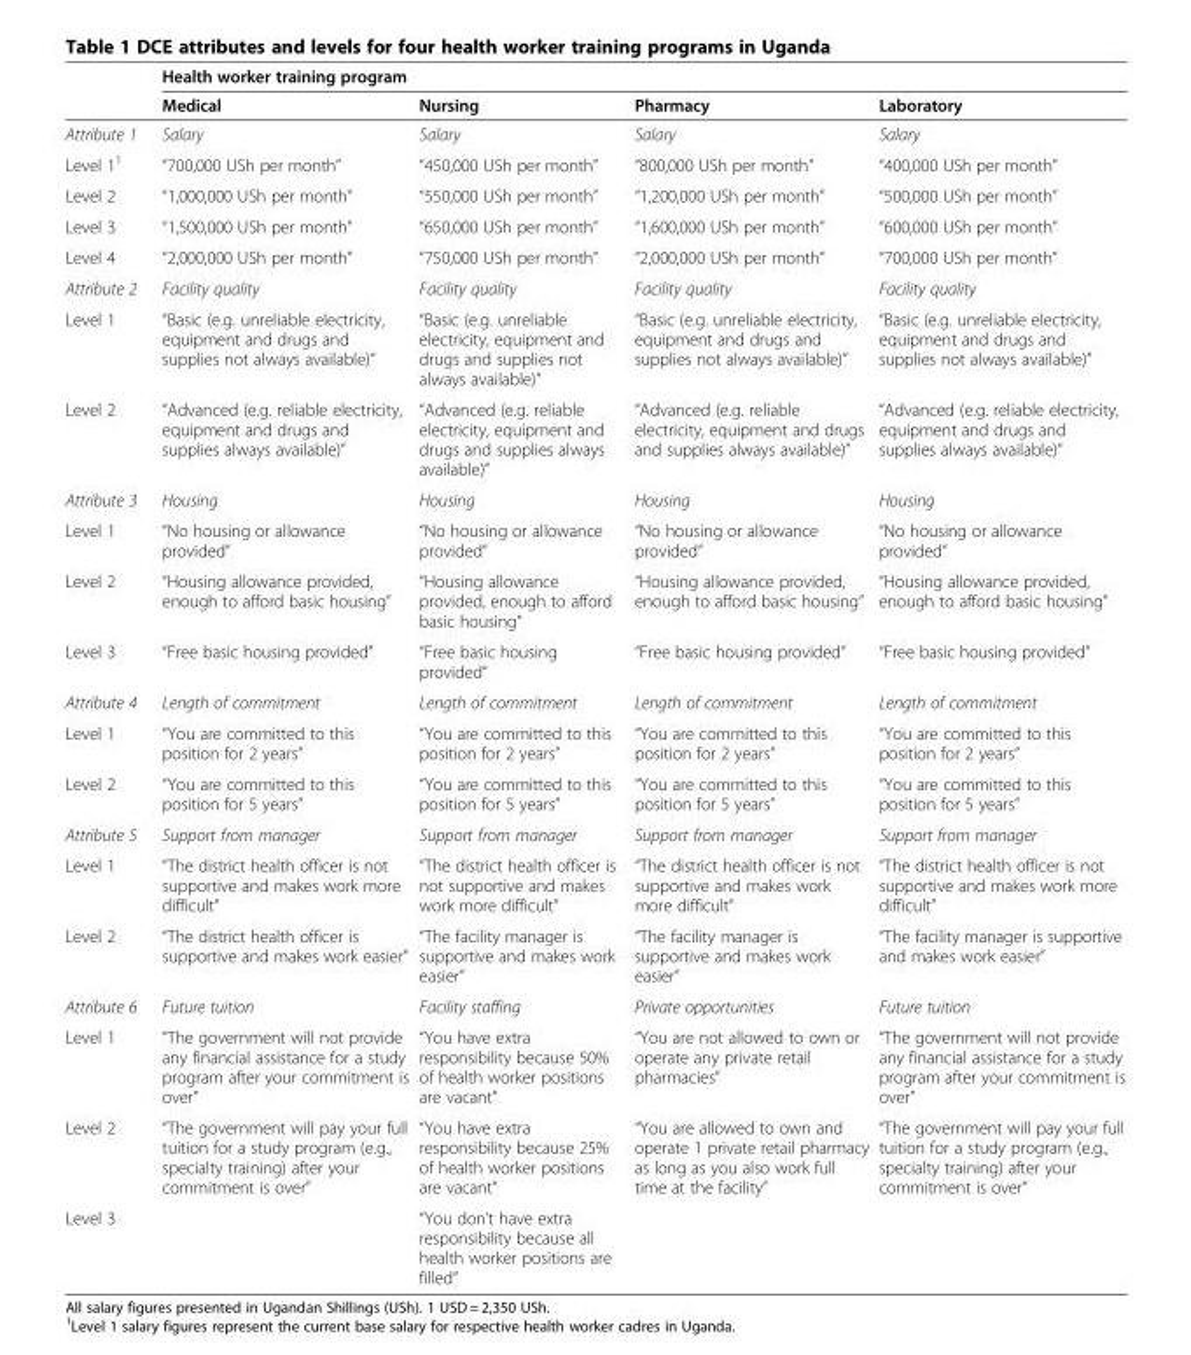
<table><thead><tr><td rowspan="2"></td><td colspan="4">Health worker training program</td></tr><tr><td>Medical</td><td>Nursing</td><td>Pharmacy</td><td>Laboratory</td></tr></thead><tbody><tr><td>Attribute 1</td><td>Salary</td><td>Salary</td><td>Salary</td><td>Salary</td></tr><tr><td>Level 1<sup>1</sup></td><td>“700,000 USh per month”</td><td>“450,000 USh per month”</td><td>“800,000 USh per month”</td><td>“400,000 USh per month”</td></tr><tr><td>Level 2</td><td>“1,000,000 USh per month”</td><td>“550,000 USh per month”</td><td>“1,200,000 USh per month”</td><td>“500,000 USh per month”</td></tr><tr><td>Level 3</td><td>“1,500,000 USh per month”</td><td>“650,000 USh per month”</td><td>“1,600,000 USh per month”</td><td>“600,000 USh per month”</td></tr><tr><td>Level 4</td><td>“2,000,000 USh per month”</td><td>“750,000 USh per month”</td><td>“2,000,000 USh per month”</td><td>“700,000 USh per month”</td></tr><tr><td>Attribute 2</td><td>Facility quality</td><td>Facility quality</td><td>Facility quality</td><td>Facility quality</td></tr><tr><td>Level 1</td><td>“Basic (e.g. unreliable electricity, equipment and drugs and supplies not always available)”</td><td>“Basic (e.g. unreliable electricity, equipment and drugs and supplies not always available)”</td><td>“Basic (e.g. unreliable electricity, equipment and drugs and supplies not always available)”</td><td>“Basic (e.g. unreliable electricity, equipment and drugs and supplies not always available)”</td></tr><tr><td>Level 2</td><td>“Advanced (e.g. reliable electricity, equipment and drugs and supplies always available)”</td><td>“Advanced (e.g. reliable electricity, equipment and drugs and supplies always available)”</td><td>“Advanced (e.g. reliable electricity, equipment and drugs and supplies always available)”</td><td>“Advanced (e.g. reliable electricity, equipment and drugs and supplies always available)”</td></tr><tr><td>Attribute 3</td><td>Housing</td><td>Housing</td><td>Housing</td><td>Housing</td></tr><tr><td>Level 1</td><td>“No housing or allowance provided”</td><td>“No housing or allowance provided”</td><td>“No housing or allowance provided”</td><td>“No housing or allowance provided”</td></tr><tr><td>Level 2</td><td>“Housing allowance provided, enough to afford basic housing”</td><td>“Housing allowance provided, enough to afford basic housing”</td><td>“Housing allowance provided, enough to afford basic housing”</td><td>“Housing allowance provided, enough to afford basic housing”</td></tr><tr><td>Level 3</td><td>“Free basic housing provided”</td><td>“Free basic housing provided”</td><td>“Free basic housing provided”</td><td>“Free basic housing provided”</td></tr><tr><td>Attribute 4</td><td>Length of commitment</td><td>Length of commitment</td><td>Length of commitment</td><td>Length of commitment</td></tr><tr><td>Level 1</td><td>“You are committed to this position for 2 years”</td><td>“You are committed to this position for 2 years”</td><td>“You are committed to this position for 2 years”</td><td>“You are committed to this position for 2 years”</td></tr><tr><td>Level 2</td><td>“You are committed to this position for 5 years”</td><td>“You are committed to this position for 5 years”</td><td>“You are committed to this position for 5 years”</td><td>“You are committed to this position for 5 years”</td></tr><tr><td>Attribute 5</td><td>Support from manager</td><td>Support from manager</td><td>Support from manager</td><td>Support from manager</td></tr><tr><td>Level 1</td><td>“The district health officer is not supportive and makes work more difficult”</td><td>“The district health officer is not supportive and makes work more difficult”</td><td>“The district health officer is not supportive and makes work more difficult”</td><td>“The district health officer is not supportive and makes work more difficult”</td></tr><tr><td>Level 2</td><td>“The district health officer is supportive and makes work easier”</td><td>“The facility manager is supportive and makes work easier”</td><td>“The facility manager is supportive and makes work easier”</td><td>“The facility manager is supportive and makes work easier”</td></tr><tr><td>Attribute 6</td><td>Future tuition</td><td>Facility staffing</td><td>Private opportunities</td><td>Future tuition</td></tr><tr><td>Level 1</td><td>“The government will not provide any financial assistance for a study program after your commitment is over”</td><td>“You have extra responsibility because 50% of health worker positions are vacant”</td><td>“You are not allowed to own or operate any private retail pharmacies”</td><td>“The government will not provide any financial assistance for a study program after your commitment is over”</td></tr><tr><td>Level 2</td><td>“The government will pay your full tuition for a study program (e.g., specialty training) after your commitment is over”</td><td>“You have extra responsibility because 25% of health worker positions are vacant”</td><td>“You are allowed to own and operate 1 private retail pharmacy as long as you also work full time at the facility”</td><td>“The government will pay your full tuition for a study program (e.g., specialty training) after your commitment is over”</td></tr><tr><td>Level 3</td><td></td><td>“You don’t have extra responsibility because all health worker positions are filled”</td><td></td><td></td></tr></tbody></table>